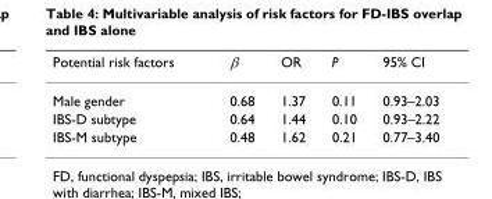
<table><thead><tr><td>Potential risk factors</td><td>β</td><td>OR</td><td>P</td><td>95% CI</td></tr></thead><tbody><tr><td>Male gender</td><td>0.68</td><td>1.37</td><td>0.11</td><td>0.93–2.03</td></tr><tr><td>IBS-D subtype</td><td>0.64</td><td>1.44</td><td>0.10</td><td>0.93–2.22</td></tr><tr><td>IBS-M subtype</td><td>0.48</td><td>1.62</td><td>0.21</td><td>0.77–3.40</td></tr></tbody></table>